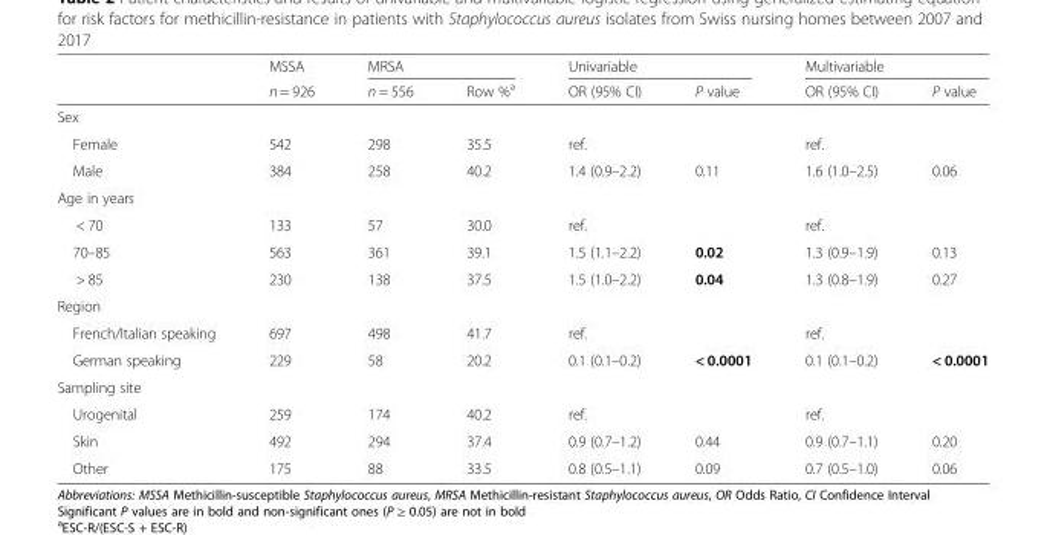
<table><thead><tr><td rowspan="2"></td><td rowspan="2">MSSA n = 926</td><td colspan="2">MRSA</td><td colspan="2">Univariable</td><td colspan="2">Multivariable</td></tr><tr><td>n = 556</td><td>Row %<sup>a</sup></td><td>OR (95% CI)</td><td>P value</td><td>OR (95% CI)</td><td>P value</td></tr></thead><tbody><tr><td colspan="8">Sex</td></tr><tr><td>Female</td><td>542</td><td>298</td><td>35.5</td><td>ref.</td><td></td><td>ref.</td><td></td></tr><tr><td>Male</td><td>384</td><td>258</td><td>40.2</td><td>1.4 (0.9–2.2)</td><td>0.11</td><td>1.6 (1.0–2.5)</td><td>0.06</td></tr><tr><td colspan="8">Age in years</td></tr><tr><td>&lt; 70</td><td>133</td><td>57</td><td>30.0</td><td>ref.</td><td></td><td>ref.</td><td></td></tr><tr><td>70–85</td><td>563</td><td>361</td><td>39.1</td><td>1.5 (1.1–2.2)</td><td>0.02</td><td>1.3 (0.9–1.9)</td><td>0.13</td></tr><tr><td>&gt; 85</td><td>230</td><td>138</td><td>37.5</td><td>1.5 (1.0–2.2)</td><td>0.04</td><td>1.3 (0.8–1.9)</td><td>0.27</td></tr><tr><td colspan="8">Region</td></tr><tr><td>French/Italian speaking</td><td>697</td><td>498</td><td>41.7</td><td>ref.</td><td></td><td>ref.</td><td></td></tr><tr><td>German speaking</td><td>229</td><td>58</td><td>20.2</td><td>0.1 (0.1–0.2)</td><td>&lt; 0.0001</td><td>0.1 (0.1–0.2)</td><td>&lt; 0.0001</td></tr><tr><td colspan="8">Sampling site</td></tr><tr><td>Urogenital</td><td>259</td><td>174</td><td>40.2</td><td>ref.</td><td></td><td>ref.</td><td></td></tr><tr><td>Skin</td><td>492</td><td>294</td><td>37.4</td><td>0.9 (0.7–1.2)</td><td>0.44</td><td>0.9 (0.7–1.1)</td><td>0.20</td></tr><tr><td>Other</td><td>175</td><td>88</td><td>33.5</td><td>0.8 (0.5–1.1)</td><td>0.09</td><td>0.7 (0.5–1.0)</td><td>0.06</td></tr></tbody></table>